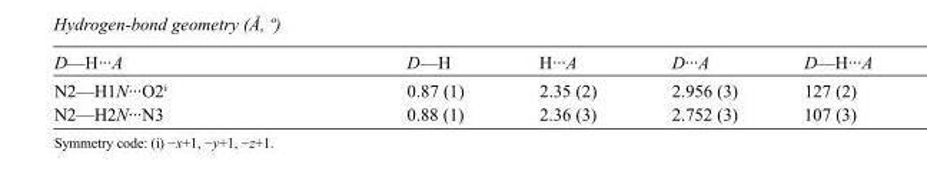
<table><tbody><tr><td>D—H···A</td><td>D—H</td><td>H···A</td><td>D···A</td><td>D—H···A</td></tr><tr><td>N2—H1N···O2<sup>i</sup></td><td>0.87 (1)</td><td>2.35 (2)</td><td>2.956 (3)</td><td>127 (2)</td></tr><tr><td>N2—H2N···N3</td><td>0.88 (1)</td><td>2.36 (3)</td><td>2.752 (3)</td><td>107 (3)</td></tr></tbody></table>